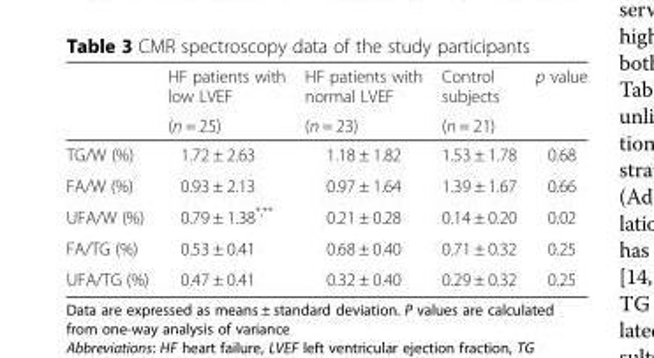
<table><thead><tr><td rowspan="2"></td><td rowspan="2">HF patients with low LVEF (n = 25)</td><td rowspan="2">HF patients with normal LVEF (n = 23)</td><td rowspan="2">Control subjects (n = 21)</td><td rowspan="2">p value</td></tr><tr></tr></thead><tbody><tr><td>TG/W (%)</td><td>1.72 ± 2.63</td><td>1.18 ± 1.82</td><td>1.53 ± 1.78</td><td>0.68</td></tr><tr><td>FA/W (%)</td><td>0.93 ± 2.13</td><td>0.97 ± 1.64</td><td>1.39 ± 1.67</td><td>0.66</td></tr><tr><td>UFA/W (%)</td><td>0.79 ± 1.38<sup>*,**</sup></td><td>0.21 ± 0.28</td><td>0.14 ± 0.20</td><td>0.02</td></tr><tr><td>FA/TG (%)</td><td>0.53 ± 0.41</td><td>0.68 ± 0.40</td><td>0.71 ± 0.32</td><td>0.25</td></tr><tr><td>UFA/TG (%)</td><td>0.47 ± 0.41</td><td>0.32 ± 0.40</td><td>0.29 ± 0.32</td><td>0.25</td></tr></tbody></table>